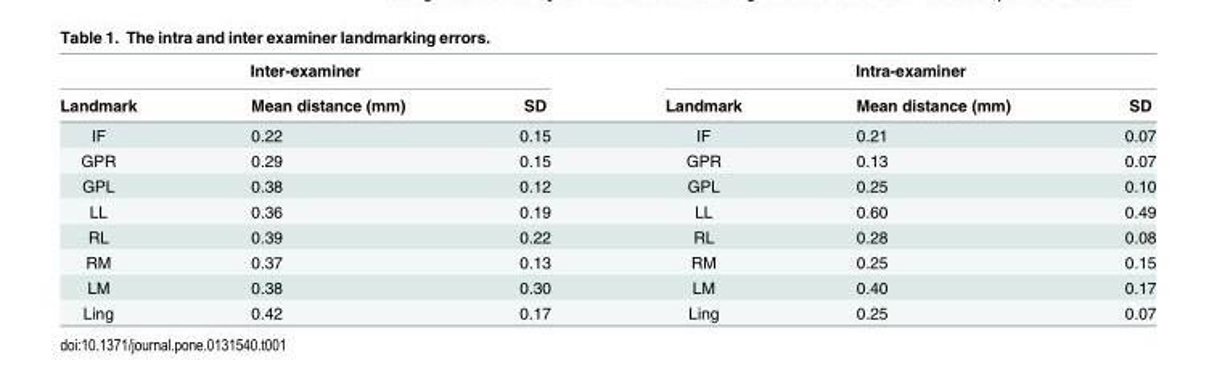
<table><thead><tr><td colspan="3">Inter-examiner</td><td colspan="3">Intra-examiner</td></tr><tr><td>Landmark</td><td>Mean distance (mm)</td><td>SD</td><td>Landmark</td><td>Mean distance (mm)</td><td>SD</td></tr></thead><tbody><tr><td>IF</td><td>0.22</td><td>0.15</td><td>IF</td><td>0.21</td><td>0.07</td></tr><tr><td>GPR</td><td>0.29</td><td>0.15</td><td>GPR</td><td>0.13</td><td>0.07</td></tr><tr><td>GPL</td><td>0.38</td><td>0.12</td><td>GPL</td><td>0.25</td><td>0.10</td></tr><tr><td>LL</td><td>0.36</td><td>0.19</td><td>LL</td><td>0.60</td><td>0.49</td></tr><tr><td>RL</td><td>0.39</td><td>0.22</td><td>RL</td><td>0.28</td><td>0.08</td></tr><tr><td>RM</td><td>0.37</td><td>0.13</td><td>RM</td><td>0.25</td><td>0.15</td></tr><tr><td>LM</td><td>0.38</td><td>0.30</td><td>LM</td><td>0.40</td><td>0.17</td></tr><tr><td>Ling</td><td>0.42</td><td>0.17</td><td>Ling</td><td>0.25</td><td>0.07</td></tr></tbody></table>